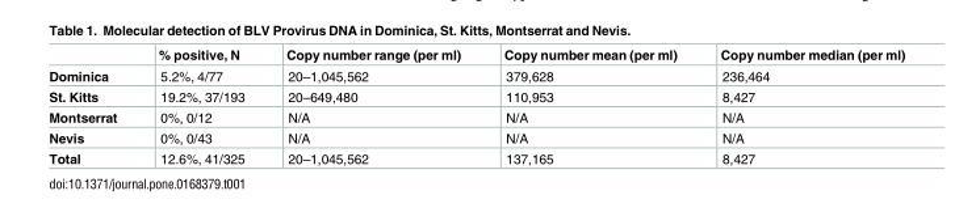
<table><thead><tr><td></td><td>% positive, N</td><td>Copy number range (per ml)</td><td>Copy number mean (per ml)</td><td>Copy number median (per ml)</td></tr></thead><tbody><tr><td>Dominica</td><td>5.2%, 4/77</td><td>20–1,045,562</td><td>379,628</td><td>236,464</td></tr><tr><td>St. Kitts</td><td>19.2%, 37/193</td><td>20–649,480</td><td>110,953</td><td>8,427</td></tr><tr><td>Montserrat</td><td>0%, 0/12</td><td>N/A</td><td>N/A</td><td>N/A</td></tr><tr><td>Nevis</td><td>0%, 0/43</td><td>N/A</td><td>N/A</td><td>N/A</td></tr><tr><td>Total</td><td>12.6%, 41/325</td><td>20–1,045,562</td><td>137,165</td><td>8,427</td></tr></tbody></table>